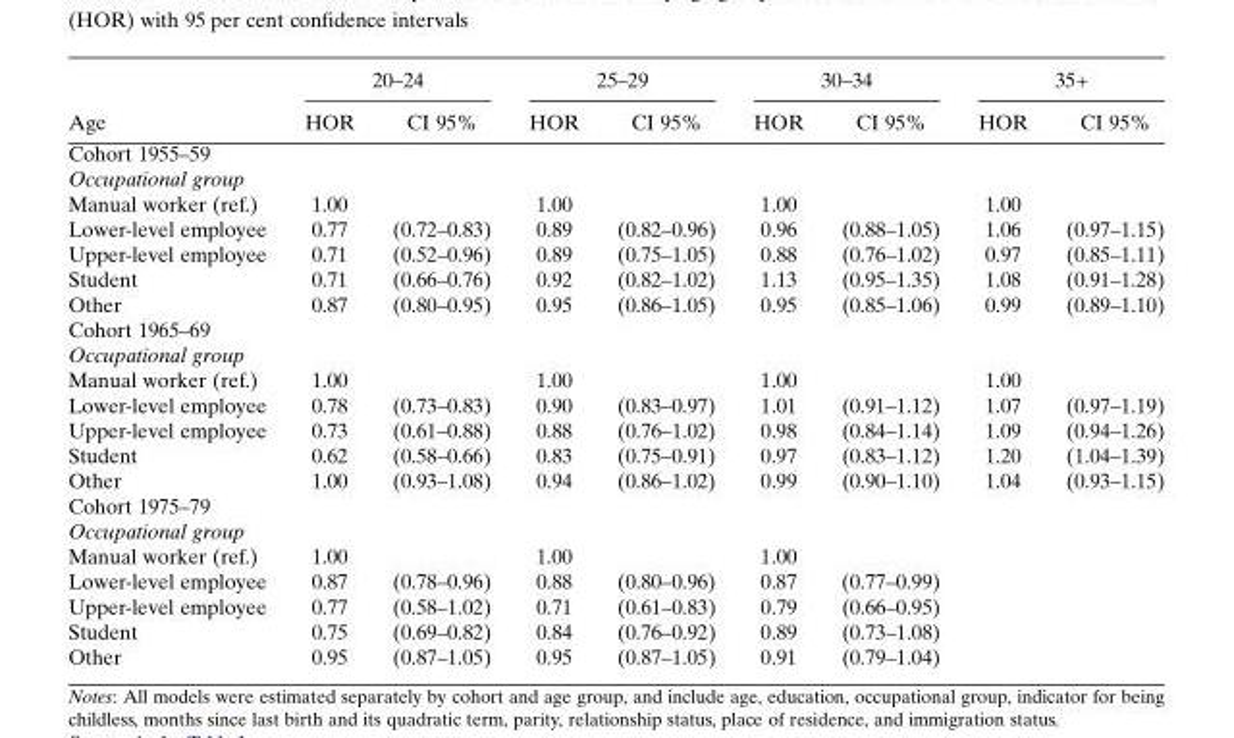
<table><thead><tr><td rowspan="2">Age</td><td colspan="2">20–24</td><td colspan="2">25–29</td><td colspan="2">30–34</td><td colspan="2">35+</td></tr><tr><td>HOR</td><td>CI 95%</td><td>HOR</td><td>CI 95%</td><td>HOR</td><td>CI 95%</td><td>HOR</td><td>CI 95%</td></tr></thead><tbody><tr><td colspan="9">Cohort 1955–59</td></tr><tr><td colspan="9">Occupational group</td></tr><tr><td>Manual worker (ref.)</td><td>1.00</td><td></td><td>1.00</td><td></td><td>1.00</td><td></td><td>1.00</td><td></td></tr><tr><td>Lower-level employee</td><td>0.77</td><td>(0.72–0.83)</td><td>0.89</td><td>(0.82–0.96)</td><td>0.96</td><td>(0.88–1.05)</td><td>1.06</td><td>(0.97–1.15)</td></tr><tr><td>Upper-level employee</td><td>0.71</td><td>(0.52–0.96)</td><td>0.89</td><td>(0.75–1.05)</td><td>0.88</td><td>(0.76–1.02)</td><td>0.97</td><td>(0.85–1.11)</td></tr><tr><td>Student</td><td>0.71</td><td>(0.66–0.76)</td><td>0.92</td><td>(0.82–1.02)</td><td>1.13</td><td>(0.95–1.35)</td><td>1.08</td><td>(0.91–1.28)</td></tr><tr><td>Other</td><td>0.87</td><td>(0.80–0.95)</td><td>0.95</td><td>(0.86–1.05)</td><td>0.95</td><td>(0.85–1.06)</td><td>0.99</td><td>(0.89–1.10)</td></tr><tr><td colspan="9">Cohort 1965–69</td></tr><tr><td colspan="9">Occupational group</td></tr><tr><td>Manual worker (ref.)</td><td>1.00</td><td></td><td>1.00</td><td></td><td>1.00</td><td></td><td>1.00</td><td></td></tr><tr><td>Lower-level employee</td><td>0.78</td><td>(0.73–0.83)</td><td>0.90</td><td>(0.83–0.97)</td><td>1.01</td><td>(0.91–1.12)</td><td>1.07</td><td>(0.97–1.19)</td></tr><tr><td>Upper-level employee</td><td>0.73</td><td>(0.61–0.88)</td><td>0.88</td><td>(0.76–1.02)</td><td>0.98</td><td>(0.84–1.14)</td><td>1.09</td><td>(0.94–1.26)</td></tr><tr><td>Student</td><td>0.62</td><td>(0.58–0.66)</td><td>0.83</td><td>(0.75–0.91)</td><td>0.97</td><td>(0.83–1.12)</td><td>1.20</td><td>(1.04–1.39)</td></tr><tr><td>Other</td><td>1.00</td><td>(0.93–1.08)</td><td>0.94</td><td>(0.86–1.02)</td><td>0.99</td><td>(0.90–1.10)</td><td>1.04</td><td>(0.93–1.15)</td></tr><tr><td colspan="9">Cohort 1975–79</td></tr><tr><td colspan="9">Occupational group</td></tr><tr><td>Manual worker (ref.)</td><td>1.00</td><td></td><td>1.00</td><td></td><td>1.00</td><td></td><td></td><td></td></tr><tr><td>Lower-level employee</td><td>0.87</td><td>(0.78–0.96)</td><td>0.88</td><td>(0.80–0.96)</td><td>0.87</td><td>(0.77–0.99)</td><td></td><td></td></tr><tr><td>Upper-level employee</td><td>0.77</td><td>(0.58–1.02)</td><td>0.71</td><td>(0.61–0.83)</td><td>0.79</td><td>(0.66–0.95)</td><td></td><td></td></tr><tr><td>Student</td><td>0.75</td><td>(0.69–0.82)</td><td>0.84</td><td>(0.76–0.92)</td><td>0.89</td><td>(0.73–1.08)</td><td></td><td></td></tr><tr><td>Other</td><td>0.95</td><td>(0.87–1.05)</td><td>0.95</td><td>(0.87–1.05)</td><td>0.91</td><td>(0.79–1.04)</td><td></td><td></td></tr></tbody></table>